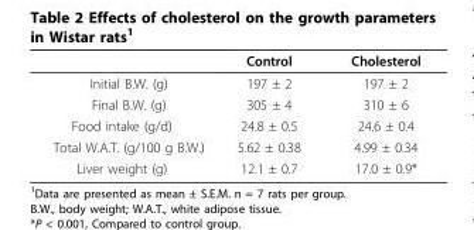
<table><thead><tr><td></td><td>Control</td><td>Cholesterol</td></tr></thead><tbody><tr><td>Initial B.W. (g)</td><td>197 ± 2</td><td>197 ± 2</td></tr><tr><td>Final B.W. (g)</td><td>305 ± 4</td><td>310 ± 6</td></tr><tr><td>Food intake (g/d)</td><td>24.8 ± 0.5</td><td>24.6 ± 0.4</td></tr><tr><td>Total W.A.T. (g/100 g B.W.)</td><td>5.62 ± 0.38</td><td>4.99 ± 0.34</td></tr><tr><td>Liver weight (g)</td><td>12.1 ± 0.7</td><td>17.0 ± 0.9*</td></tr></tbody></table>